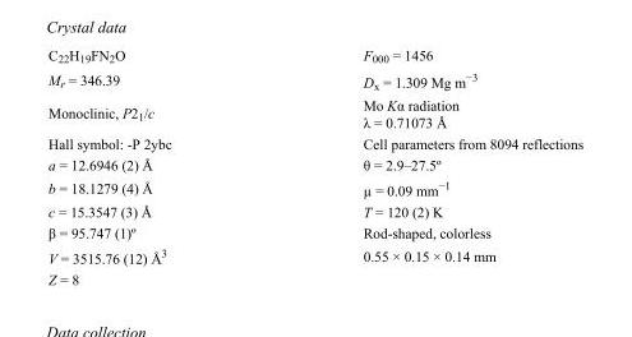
<table><tbody><tr><td>C<sub>22</sub>H<sub>19</sub>FN<sub>2</sub>O</td><td>F<sub>000</sub> = 1456</td></tr><tr><td>M<sub>r</sub> = 346.39</td><td>D<sub>x</sub> = 1.309 Mg m<sup>−3</sup></td></tr><tr><td>Monoclinic, P2<sub>1</sub>/c</td><td>Mo Kα radiation λ = 0.71073 Å</td></tr><tr><td>Hall symbol: -P 2ybc</td><td>Cell parameters from 8094 reflections</td></tr><tr><td>a = 12.6946 (2) Å</td><td>θ = 2.9–27.5º</td></tr><tr><td>b = 18.1279 (4) Å</td><td>µ = 0.09 mm<sup>−1</sup></td></tr><tr><td>c = 15.3547 (3) Å</td><td>T = 120 (2) K</td></tr><tr><td>β = 95.747 (1)º</td><td>Rod-shaped, colorless</td></tr><tr><td>V = 3515.76 (12) Å<sup>3</sup></td><td>0.55 × 0.15 × 0.14 mm</td></tr><tr><td>Z = 8</td><td></td></tr></tbody></table>